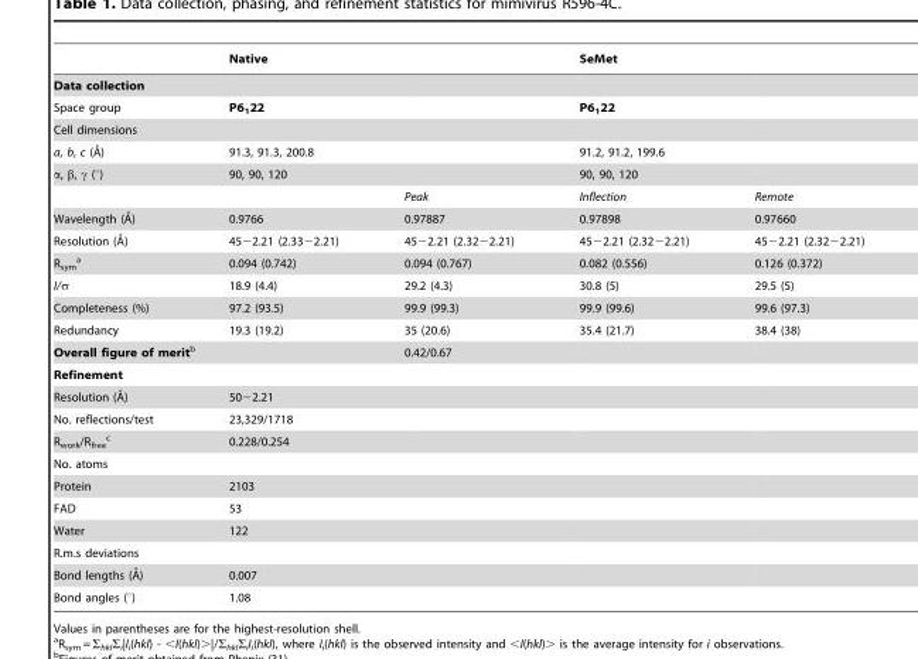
<table><thead><tr><td></td><td>Native</td><td></td><td>SeMet</td><td></td></tr></thead><tbody><tr><td colspan="5">Data collection</td></tr><tr><td>Space group</td><td>P6<sub>1</sub>22</td><td></td><td>P6<sub>1</sub>22</td><td></td></tr><tr><td colspan="5">Cell dimensions</td></tr><tr><td>a, b, c (A˚)</td><td>91.3, 91.3, 200.8</td><td></td><td>91.2, 91.2, 199.6</td><td></td></tr><tr><td rowspan="2">α, β, γ (°)</td><td>90, 90, 120</td><td></td><td>90, 90, 120</td><td></td></tr><tr><td></td><td>Peak</td><td>Inflection</td><td>Remote</td></tr><tr><td>Wavelength (A˚)</td><td>0.9766</td><td>0.97887</td><td>0.97898</td><td>0.97660</td></tr><tr><td>Resolution (A˚)</td><td>45−2.21 (2.33−2.21)</td><td>45−2.21 (2.32−2.21)</td><td>45−2.21 (2.32−2.21)</td><td>45−2.21 (2.32−2.21)</td></tr><tr><td>R<sub>sym</sub> a</td><td>0.094 (0.742)</td><td>0.094 (0.767)</td><td>0.082 (0.556)</td><td>0.126 (0.372)</td></tr><tr><td>I/σ</td><td>18.9 (4.4)</td><td>29.2 (4.3)</td><td>30.8 (5)</td><td>29.5 (5)</td></tr><tr><td>Completeness (%)</td><td>97.2 (93.5)</td><td>99.9 (99.3)</td><td>99.9 (99.6)</td><td>99.6 (97.3)</td></tr><tr><td>Redundancy</td><td>19.3 (19.2)</td><td>35 (20.6)</td><td>35.4 (21.7)</td><td>38.4 (38)</td></tr><tr><td colspan="2">Overall figure of meritb</td><td>0.42/0.67</td><td></td><td></td></tr><tr><td colspan="5">Refinement</td></tr><tr><td>Resolution (A˚)</td><td>50−2.21</td><td></td><td></td><td></td></tr><tr><td>No. reflections/test</td><td>23,329/1718</td><td></td><td></td><td></td></tr><tr><td>R<sub>work</sub>/R<sub>free</sub> c</td><td>0.228/0.254</td><td></td><td></td><td></td></tr><tr><td colspan="5">No. atoms</td></tr><tr><td>Protein</td><td>2103</td><td></td><td></td><td></td></tr><tr><td>FAD</td><td>53</td><td></td><td></td><td></td></tr><tr><td>Water</td><td>122</td><td></td><td></td><td></td></tr><tr><td colspan="5">R.m.s deviations</td></tr><tr><td>Bond lengths (A˚)</td><td>0.007</td><td></td><td></td><td></td></tr><tr><td>Bond angles (°)</td><td>1.08</td><td></td><td></td><td></td></tr></tbody></table>